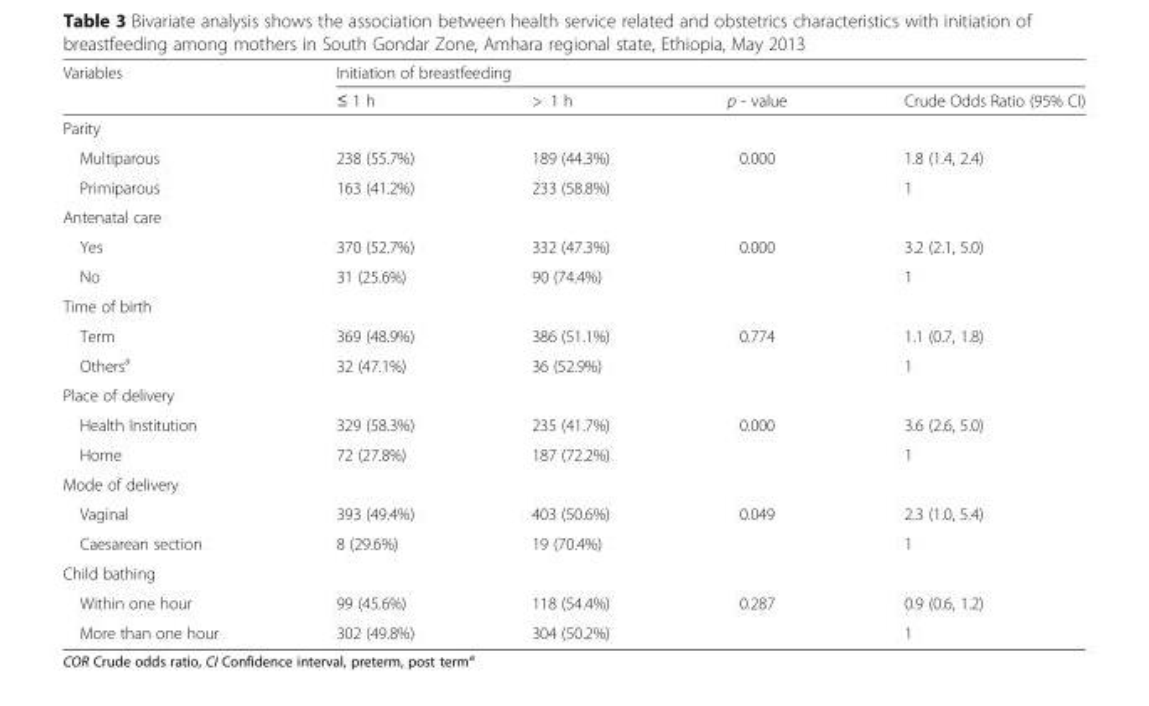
<table><thead><tr><td rowspan="2">Variables</td><td colspan="4">Initiation of breastfeeding</td></tr><tr><td>≤ 1 h</td><td>&gt; 1 h</td><td>p - value</td><td>Crude Odds Ratio (95% CI)</td></tr></thead><tbody><tr><td colspan="5">Parity</td></tr><tr><td>Multiparous</td><td>238 (55.7%)</td><td>189 (44.3%)</td><td>0.000</td><td>1.8 (1.4, 2.4)</td></tr><tr><td>Primiparous</td><td>163 (41.2%)</td><td>233 (58.8%)</td><td></td><td>1</td></tr><tr><td colspan="5">Antenatal care</td></tr><tr><td>Yes</td><td>370 (52.7%)</td><td>332 (47.3%)</td><td>0.000</td><td>3.2 (2.1, 5.0)</td></tr><tr><td>No</td><td>31 (25.6%)</td><td>90 (74.4%)</td><td></td><td>1</td></tr><tr><td colspan="5">Time of birth</td></tr><tr><td>Term</td><td>369 (48.9%)</td><td>386 (51.1%)</td><td>0.774</td><td>1.1 (0.7, 1.8)</td></tr><tr><td>Others<sup>a</sup></td><td>32 (47.1%)</td><td>36 (52.9%)</td><td></td><td>1</td></tr><tr><td colspan="5">Place of delivery</td></tr><tr><td>Health Institution</td><td>329 (58.3%)</td><td>235 (41.7%)</td><td>0.000</td><td>3.6 (2.6, 5.0)</td></tr><tr><td>Home</td><td>72 (27.8%)</td><td>187 (72.2%)</td><td></td><td>1</td></tr><tr><td colspan="5">Mode of delivery</td></tr><tr><td>Vaginal</td><td>393 (49.4%)</td><td>403 (50.6%)</td><td>0.049</td><td>2.3 (1.0, 5.4)</td></tr><tr><td>Caesarean section</td><td>8 (29.6%)</td><td>19 (70.4%)</td><td></td><td>1</td></tr><tr><td colspan="5">Child bathing</td></tr><tr><td>Within one hour</td><td>99 (45.6%)</td><td>118 (54.4%)</td><td>0.287</td><td>0.9 (0.6, 1.2)</td></tr><tr><td>More than one hour</td><td>302 (49.8%)</td><td>304 (50.2%)</td><td></td><td>1</td></tr></tbody></table>